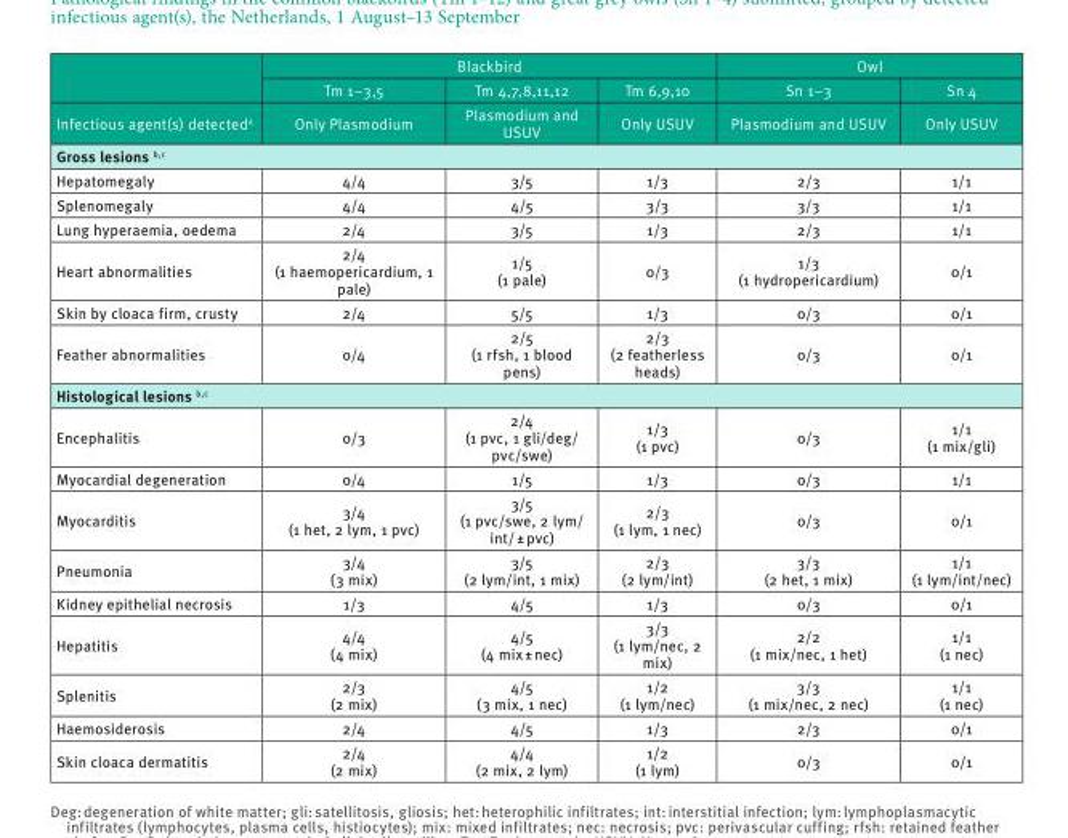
<table><thead><tr><td rowspan="3">Infectious agent(s) detected<sup>a</sup></td><td colspan="3">Blackbird</td><td colspan="2">Owl</td></tr><tr><td rowspan="2">Tm 1–3,5 Only Plasmodium</td><td rowspan="2">Tm 4,7,8,11,12 Plasmodium and USUV</td><td rowspan="2">Tm 6,9,10 Only USUV</td><td rowspan="2">Sn 1–3 Plasmodium and USUV</td><td rowspan="2">Sn 4 Only USUV</td></tr><tr></tr></thead><tbody><tr><td colspan="6">Gross lesions <sup>b,c</sup></td></tr><tr><td>Hepatomegaly</td><td>4/4</td><td>3/5</td><td>1/3</td><td>2/3</td><td>1/1</td></tr><tr><td>Splenomegaly</td><td>4/4</td><td>4/5</td><td>3/3</td><td>3/3</td><td>1/1</td></tr><tr><td>Lung hyperaemia, oedema</td><td>2/4</td><td>3/5</td><td>1/3</td><td>2/3</td><td>1/1</td></tr><tr><td>Heart abnormalities</td><td>2/4 (1 haemopericardium, 1 pale)</td><td>1/5 (1 pale)</td><td>0/3</td><td>1/3 (1 hydropericardium)</td><td>0/1</td></tr><tr><td>Skin by cloaca firm, crusty</td><td>2/4</td><td>5/5</td><td>1/3</td><td>0/3</td><td>0/1</td></tr><tr><td>Feather abnormalities</td><td>0/4</td><td>2/5 (1 rfsh, 1 blood pens)</td><td>2/3 (2 featherless heads)</td><td>0/3</td><td>0/1</td></tr><tr><td colspan="6">Histological lesions <sup>b,c</sup></td></tr><tr><td>Encephalitis</td><td>0/3</td><td>2/4 (1 pvc, 1 gli/deg/ pvc/swe)</td><td>1/3 (1 pvc)</td><td>0/3</td><td>1/1 (1 mix/gli)</td></tr><tr><td>Myocardial degeneration</td><td>0/4</td><td>1/5</td><td>1/3</td><td>0/3</td><td>1/1</td></tr><tr><td>Myocarditis</td><td>3/4 (1 het, 2 lym, 1 pvc)</td><td>3/5 (1 pvc/swe, 2 lym/ int/ ± pvc)</td><td>2/3 (1 lym, 1 nec)</td><td>0/3</td><td>0/1</td></tr><tr><td>Pneumonia</td><td>3/4 (3 mix)</td><td>3/5 (2 lym/int, 1 mix)</td><td>2/3 (2 lym/int)</td><td>3/3 (2 het, 1 mix)</td><td>1/1 (1 lym/int/nec)</td></tr><tr><td>Kidney epithelial necrosis</td><td>1/3</td><td>4/5</td><td>1/3</td><td>0/3</td><td>0/1</td></tr><tr><td>Hepatitis</td><td>4/4 (4 mix)</td><td>4/5 (4 mix ± nec)</td><td>3/3 (1 lym/nec, 2 mix)</td><td>2/2 (1 mix/nec, 1 het)</td><td>1/1 (1 nec)</td></tr><tr><td>Splenitis</td><td>2/3 (2 mix)</td><td>4/5 (3 mix, 1 nec)</td><td>1/2 (1 lym/nec)</td><td>3/3 (1 mix/nec, 2 nec)</td><td>1/1 (1 nec)</td></tr><tr><td>Haemosiderosis</td><td>2/4</td><td>4/5</td><td>1/3</td><td>2/3</td><td>0/1</td></tr><tr><td>Skin cloaca dermatitis</td><td>2/4 (2 mix)</td><td>4/4 (2 mix, 2 lym)</td><td>1/2 (1 lym)</td><td>0/3</td><td>0/1</td></tr></tbody></table>